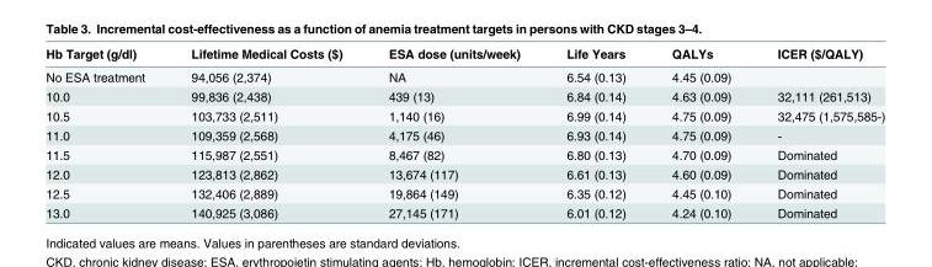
<table><thead><tr><td>Hb Target (g/dl)</td><td>Lifetime Medical Costs ($)</td><td>ESA dose (units/week)</td><td>Life Years</td><td>QALYs</td><td>ICER ($/QALY)</td></tr></thead><tbody><tr><td>No ESA treatment</td><td>94,056 (2,374)</td><td>NA</td><td>6.54 (0.13)</td><td>4.45 (0.09)</td><td></td></tr><tr><td>10.0</td><td>99,836 (2,438)</td><td>439 (13)</td><td>6.84 (0.14)</td><td>4.63 (0.09)</td><td>32,111 (261,513)</td></tr><tr><td>10.5</td><td>103,733 (2,511)</td><td>1,140 (16)</td><td>6.99 (0.14)</td><td>4.75 (0.09)</td><td>32,475 (1,575,585-)</td></tr><tr><td>11.0</td><td>109,359 (2,568)</td><td>4,175 (46)</td><td>6.93 (0.14)</td><td>4.75 (0.09)</td><td>-</td></tr><tr><td>11.5</td><td>115,987 (2,551)</td><td>8,467 (82)</td><td>6.80 (0.13)</td><td>4.70 (0.09)</td><td>Dominated</td></tr><tr><td>12.0</td><td>123,813 (2,862)</td><td>13,674 (117)</td><td>6.61 (0.13)</td><td>4.60 (0.09)</td><td>Dominated</td></tr><tr><td>12.5</td><td>132,406 (2,889)</td><td>19,864 (149)</td><td>6.35 (0.12)</td><td>4.45 (0.10)</td><td>Dominated</td></tr><tr><td>13.0</td><td>140,925 (3,086)</td><td>27,145 (171)</td><td>6.01 (0.12)</td><td>4.24 (0.10)</td><td>Dominated</td></tr></tbody></table>